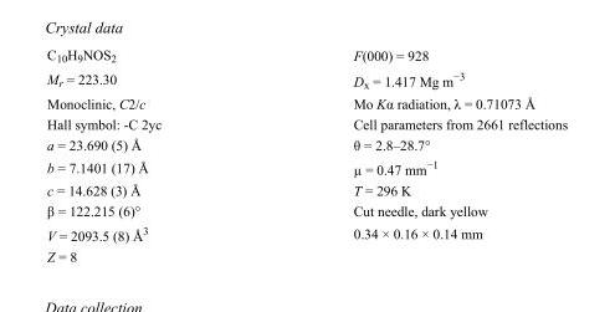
<table><tbody><tr><td>C<sub>10</sub>H<sub>9</sub>NOS<sub>2</sub></td><td>F(000) = 928</td></tr><tr><td>M<sub>r</sub> = 223.30</td><td>D<sub>x</sub> = 1.417 Mg m<sup>−3</sup></td></tr><tr><td>Monoclinic, C2/c</td><td>Mo Kα radiation, λ = 0.71073 Å</td></tr><tr><td>Hall symbol: -C 2yc</td><td>Cell parameters from 2661 reflections</td></tr><tr><td>a = 23.690 (5) Å</td><td>θ = 2.8–28.7°</td></tr><tr><td>b = 7.1401 (17) Å</td><td>µ = 0.47 mm<sup>−1</sup></td></tr><tr><td>c = 14.628 (3) Å</td><td>T = 296 K</td></tr><tr><td>β = 122.215 (6)°</td><td>Cut needle, dark yellow</td></tr><tr><td>V = 2093.5 (8) Å<sup>3</sup></td><td>0.34 × 0.16 × 0.14 mm</td></tr><tr><td>Z = 8</td><td></td></tr></tbody></table>